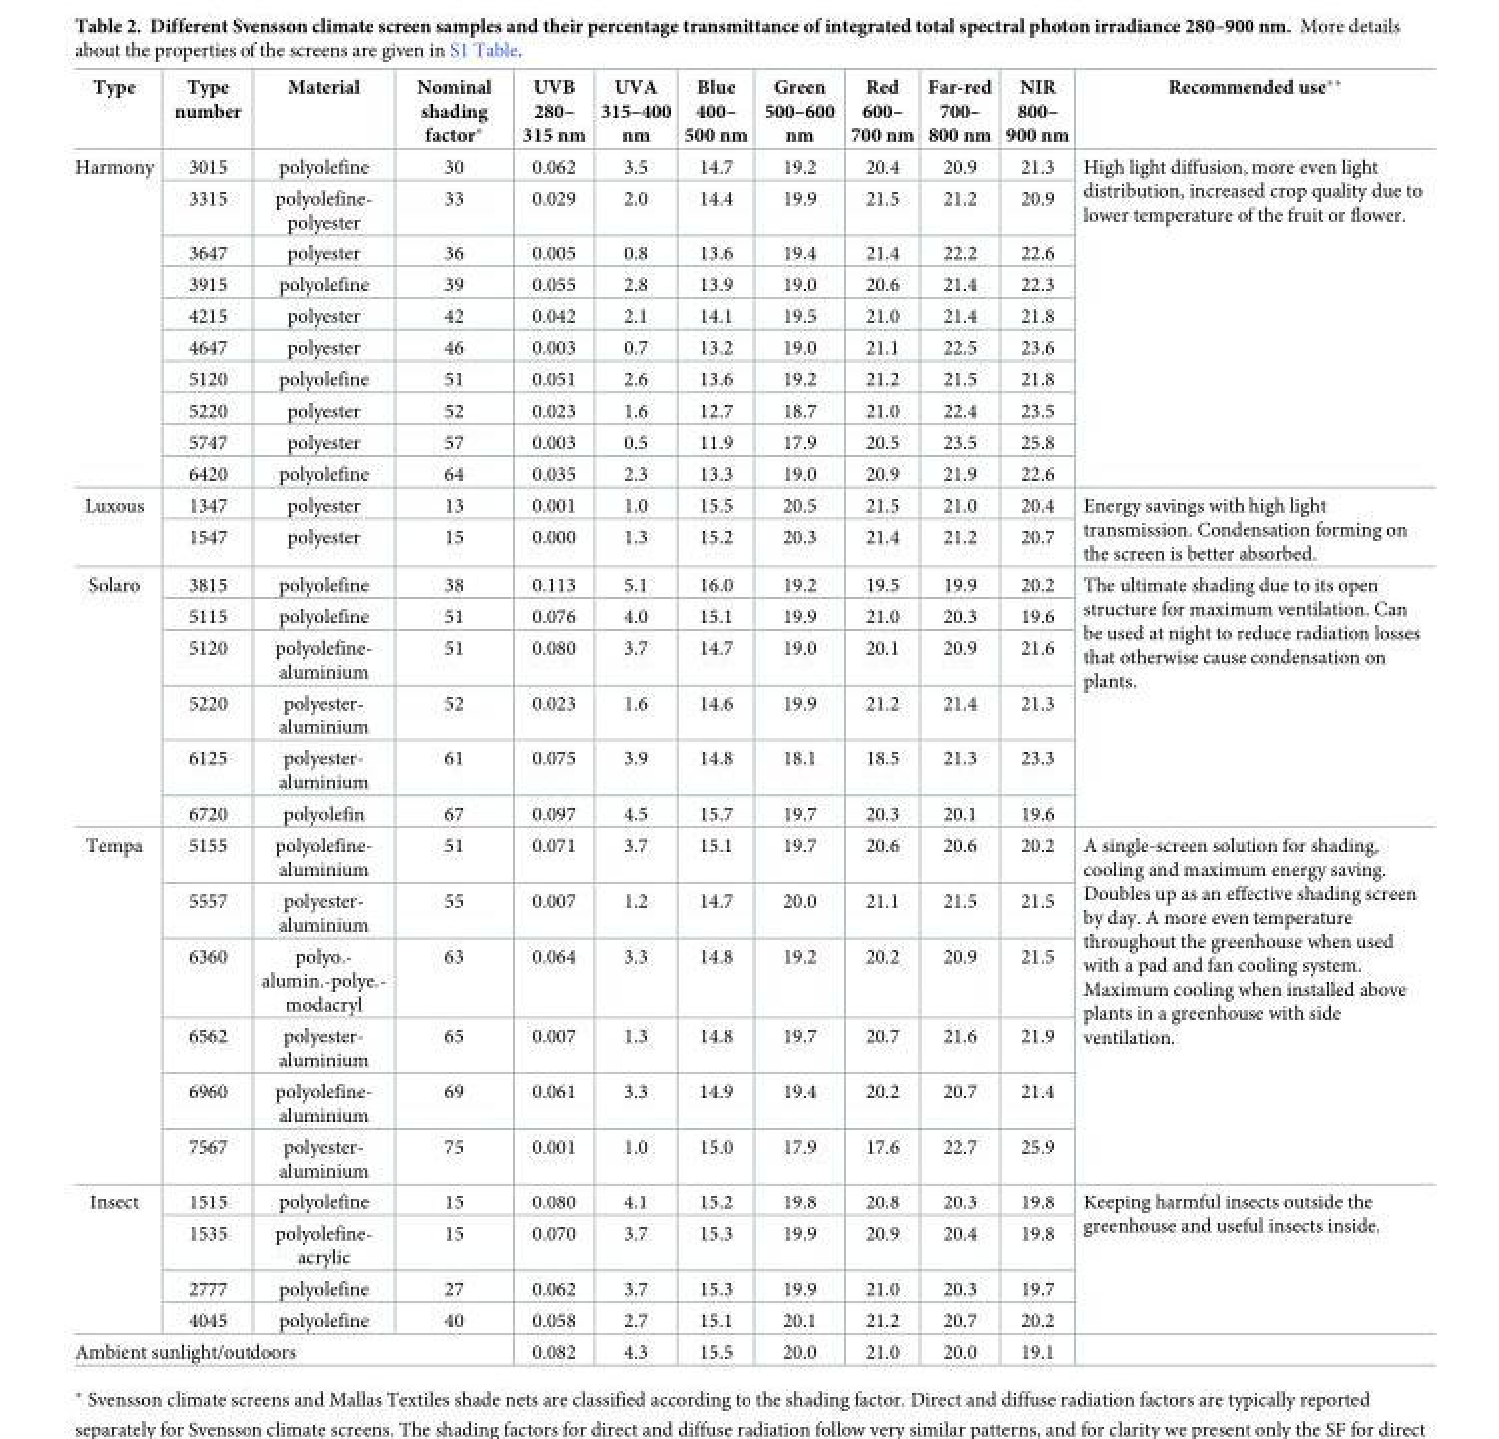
<table><thead><tr><td>Type</td><td>Type number</td><td>Material</td><td>Nominal shading factor*</td><td>UVB 280– 315 nm</td><td>UVA 315–400 nm</td><td>Blue 400– 500 nm</td><td>Green 500–600 nm</td><td>Red 600– 700 nm</td><td>Far-red 700– 800 nm</td><td>NIR 800– 900 nm</td><td>Recommended use**</td></tr></thead><tbody><tr><td rowspan="10">Harmony</td><td>3015</td><td>polyolefine</td><td>30</td><td>0.062</td><td>3.5</td><td>14.7</td><td>19.2</td><td>20.4</td><td>20.9</td><td>21.3</td><td rowspan="10">High light diffusion, more even light distribution, increased crop quality due to lower temperature of the fruit or flower.</td></tr><tr><td>3315</td><td>polyolefine- polyester</td><td>33</td><td>0.029</td><td>2.0</td><td>14.4</td><td>19.9</td><td>21.5</td><td>21.2</td><td>20.9</td></tr><tr><td>3647</td><td>polyester</td><td>36</td><td>0.005</td><td>0.8</td><td>13.6</td><td>19.4</td><td>21.4</td><td>22.2</td><td>22.6</td></tr><tr><td>3915</td><td>polyolefine</td><td>39</td><td>0.055</td><td>2.8</td><td>13.9</td><td>19.0</td><td>20.6</td><td>21.4</td><td>22.3</td></tr><tr><td>4215</td><td>polyester</td><td>42</td><td>0.042</td><td>2.1</td><td>14.1</td><td>19.5</td><td>21.0</td><td>21.4</td><td>21.8</td></tr><tr><td>4647</td><td>polyester</td><td>46</td><td>0.003</td><td>0.7</td><td>13.2</td><td>19.0</td><td>21.1</td><td>22.5</td><td>23.6</td></tr><tr><td>5120</td><td>polyolefine</td><td>51</td><td>0.051</td><td>2.6</td><td>13.6</td><td>19.2</td><td>21.2</td><td>21.5</td><td>21.8</td></tr><tr><td>5220</td><td>polyester</td><td>52</td><td>0.023</td><td>1.6</td><td>12.7</td><td>18.7</td><td>21.0</td><td>22.4</td><td>23.5</td></tr><tr><td>5747</td><td>polyester</td><td>57</td><td>0.003</td><td>0.5</td><td>11.9</td><td>17.9</td><td>20.5</td><td>23.5</td><td>25.8</td></tr><tr><td>6420</td><td>polyolefine</td><td>64</td><td>0.035</td><td>2.3</td><td>13.3</td><td>19.0</td><td>20.9</td><td>21.9</td><td>22.6</td></tr><tr><td rowspan="2">Luxous</td><td>1347</td><td>polyester</td><td>13</td><td>0.001</td><td>1.0</td><td>15.5</td><td>20.5</td><td>21.5</td><td>21.0</td><td>20.4</td><td rowspan="2">Energy savings with high light transmission. Condensation forming on the screen is better absorbed.</td></tr><tr><td>1547</td><td>polyester</td><td>15</td><td>0.000</td><td>1.3</td><td>15.2</td><td>20.3</td><td>21.4</td><td>21.2</td><td>20.7</td></tr><tr><td rowspan="6">Solaro</td><td>3815</td><td>polyolefine</td><td>38</td><td>0.113</td><td>5.1</td><td>16.0</td><td>19.2</td><td>19.5</td><td>19.9</td><td>20.2</td><td rowspan="6">The ultimate shading due to its open structure for maximum ventilation. Can be used at night to reduce radiation losses that otherwise cause condensation on plants.</td></tr><tr><td>5115</td><td>polyolefine</td><td>51</td><td>0.076</td><td>4.0</td><td>15.1</td><td>19.9</td><td>21.0</td><td>20.3</td><td>19.6</td></tr><tr><td>5120</td><td>polyolefine- aluminium</td><td>51</td><td>0.080</td><td>3.7</td><td>14.7</td><td>19.0</td><td>20.1</td><td>20.9</td><td>21.6</td></tr><tr><td>5220</td><td>polyester- aluminium</td><td>52</td><td>0.023</td><td>1.6</td><td>14.6</td><td>19.9</td><td>21.2</td><td>21.4</td><td>21.3</td></tr><tr><td>6125</td><td>polyester- aluminium</td><td>61</td><td>0.075</td><td>3.9</td><td>14.8</td><td>18.1</td><td>18.5</td><td>21.3</td><td>23.3</td></tr><tr><td>6720</td><td>polyolefin</td><td>67</td><td>0.097</td><td>4.5</td><td>15.7</td><td>19.7</td><td>20.3</td><td>20.1</td><td>19.6</td></tr><tr><td rowspan="6">Tempa</td><td>5155</td><td>polyolefine- aluminium</td><td>51</td><td>0.071</td><td>3.7</td><td>15.1</td><td>19.7</td><td>20.6</td><td>20.6</td><td>20.2</td><td rowspan="6">A single-screen solution for shading, cooling and maximum energy saving. Doubles up as an effective shading screen by day. A more even temperature throughout the greenhouse when used with a pad and fan cooling system. Maximum cooling when installed above plants in a greenhouse with side ventilation.</td></tr><tr><td>5557</td><td>polyester- aluminium</td><td>55</td><td>0.007</td><td>1.2</td><td>14.7</td><td>20.0</td><td>21.1</td><td>21.5</td><td>21.5</td></tr><tr><td>6360</td><td>polyo.- alumin.-polye.- modacryl</td><td>63</td><td>0.064</td><td>3.3</td><td>14.8</td><td>19.2</td><td>20.2</td><td>20.9</td><td>21.5</td></tr><tr><td>6562</td><td>polyester- aluminium</td><td>65</td><td>0.007</td><td>1.3</td><td>14.8</td><td>19.7</td><td>20.7</td><td>21.6</td><td>21.9</td></tr><tr><td>6960</td><td>polyolefine- aluminium</td><td>69</td><td>0.061</td><td>3.3</td><td>14.9</td><td>19.4</td><td>20.2</td><td>20.7</td><td>21.4</td></tr><tr><td>7567</td><td>polyester- aluminium</td><td>75</td><td>0.001</td><td>1.0</td><td>15.0</td><td>17.9</td><td>17.6</td><td>22.7</td><td>25.9</td></tr><tr><td rowspan="4">Insect</td><td>1515</td><td>polyolefine</td><td>15</td><td>0.080</td><td>4.1</td><td>15.2</td><td>19.8</td><td>20.8</td><td>20.3</td><td>19.8</td><td rowspan="4">Keeping harmful insects outside the greenhouse and useful insects inside.</td></tr><tr><td>1535</td><td>polyolefine- acrylic</td><td>15</td><td>0.070</td><td>3.7</td><td>15.3</td><td>19.9</td><td>20.9</td><td>20.4</td><td>19.8</td></tr><tr><td>2777</td><td>polyolefine</td><td>27</td><td>0.062</td><td>3.7</td><td>15.3</td><td>19.9</td><td>21.0</td><td>20.3</td><td>19.7</td></tr><tr><td>4045</td><td>polyolefine</td><td>40</td><td>0.058</td><td>2.7</td><td>15.1</td><td>20.1</td><td>21.2</td><td>20.7</td><td>20.2</td></tr><tr><td colspan="4">Ambient sunlight/outdoors</td><td>0.082</td><td>4.3</td><td>15.5</td><td>20.0</td><td>21.0</td><td>20.0</td><td>19.1</td><td></td></tr></tbody></table>